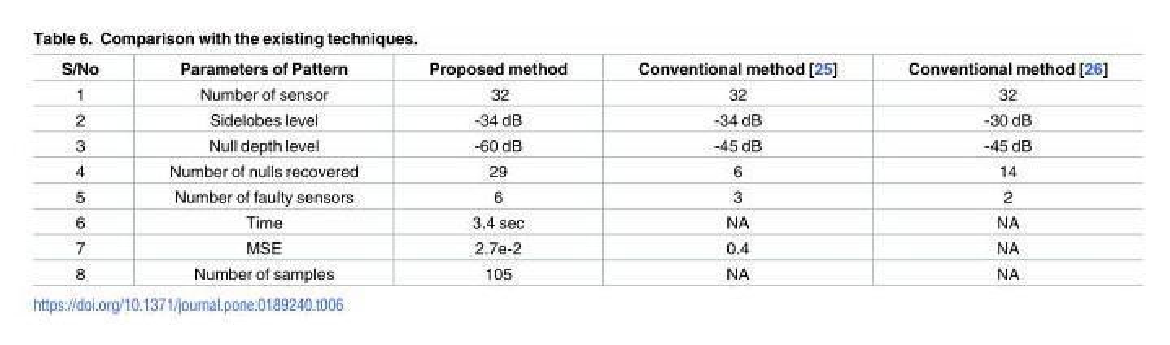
<table><thead><tr><td>S/No</td><td>Parameters of Pattern</td><td>Proposed method</td><td>Conventional method [25]</td><td>Conventional method [26]</td></tr></thead><tbody><tr><td>1</td><td>Number of sensor</td><td>32</td><td>32</td><td>32</td></tr><tr><td>2</td><td>Sidelobes level</td><td>-34 dB</td><td>-34 dB</td><td>-30 dB</td></tr><tr><td>3</td><td>Null depth level</td><td>-60 dB</td><td>-45 dB</td><td>-45 dB</td></tr><tr><td>4</td><td>Number of nulls recovered</td><td>29</td><td>6</td><td>14</td></tr><tr><td>5</td><td>Number of faulty sensors</td><td>6</td><td>3</td><td>2</td></tr><tr><td>6</td><td>Time</td><td>3.4 sec</td><td>NA</td><td>NA</td></tr><tr><td>7</td><td>MSE</td><td>2.7e-2</td><td>0.4</td><td>NA</td></tr><tr><td>8</td><td>Number of samples</td><td>105</td><td>NA</td><td>NA</td></tr></tbody></table>